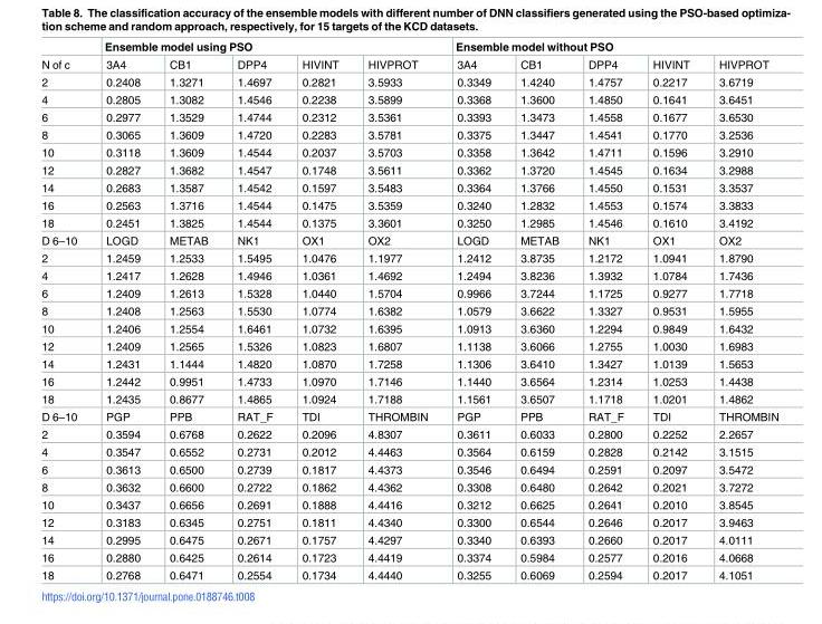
<table><thead><tr><td rowspan="2">N of c</td><td colspan="5">Ensemble model using PSO</td><td colspan="5">Ensemble model without PSO</td></tr><tr><td>3A4</td><td>CB1</td><td>DPP4</td><td>HIVINT</td><td>HIVPROT</td><td>3A4</td><td>CB1</td><td>DPP4</td><td>HIVINT</td><td>HIVPROT</td></tr></thead><tbody><tr><td>2</td><td>0.2408</td><td>1.3271</td><td>1.4697</td><td>0.2821</td><td>3.5933</td><td>0.3349</td><td>1.4240</td><td>1.4757</td><td>0.2217</td><td>3.6719</td></tr><tr><td>4</td><td>0.2805</td><td>1.3082</td><td>1.4546</td><td>0.2238</td><td>3.5899</td><td>0.3368</td><td>1.3600</td><td>1.4850</td><td>0.1641</td><td>3.6451</td></tr><tr><td>6</td><td>0.2977</td><td>1.3529</td><td>1.4744</td><td>0.2312</td><td>3.5361</td><td>0.3393</td><td>1.3473</td><td>1.4558</td><td>0.1677</td><td>3.6530</td></tr><tr><td>8</td><td>0.3065</td><td>1.3609</td><td>1.4720</td><td>0.2283</td><td>3.5781</td><td>0.3375</td><td>1.3447</td><td>1.4541</td><td>0.1770</td><td>3.2536</td></tr><tr><td>10</td><td>0.3118</td><td>1.3609</td><td>1.4544</td><td>0.2037</td><td>3.5703</td><td>0.3358</td><td>1.3642</td><td>1.4711</td><td>0.1596</td><td>3.2910</td></tr><tr><td>12</td><td>0.2827</td><td>1.3682</td><td>1.4547</td><td>0.1748</td><td>3.5611</td><td>0.3362</td><td>1.3720</td><td>1.4545</td><td>0.1634</td><td>3.2988</td></tr><tr><td>14</td><td>0.2683</td><td>1.3587</td><td>1.4542</td><td>0.1597</td><td>3.5483</td><td>0.3364</td><td>1.3766</td><td>1.4550</td><td>0.1531</td><td>3.3537</td></tr><tr><td>16</td><td>0.2563</td><td>1.3716</td><td>1.4544</td><td>0.1475</td><td>3.5359</td><td>0.3240</td><td>1.2832</td><td>1.4553</td><td>0.1574</td><td>3.3833</td></tr><tr><td>18</td><td>0.2451</td><td>1.3825</td><td>1.4544</td><td>0.1375</td><td>3.3601</td><td>0.3250</td><td>1.2985</td><td>1.4546</td><td>0.1610</td><td>3.4192</td></tr><tr><td>D 6–10</td><td>LOGD</td><td>METAB</td><td>NK1</td><td>OX1</td><td>OX2</td><td>LOGD</td><td>METAB</td><td>NK1</td><td>OX1</td><td>OX2</td></tr><tr><td>2</td><td>1.2459</td><td>1.2533</td><td>1.5495</td><td>1.0476</td><td>1.1977</td><td>1.2412</td><td>3.8735</td><td>1.2172</td><td>1.0941</td><td>1.8790</td></tr><tr><td>4</td><td>1.2417</td><td>1.2628</td><td>1.4946</td><td>1.0361</td><td>1.4692</td><td>1.2494</td><td>3.8236</td><td>1.3932</td><td>1.0784</td><td>1.7436</td></tr><tr><td>6</td><td>1.2409</td><td>1.2613</td><td>1.5328</td><td>1.0440</td><td>1.5704</td><td>0.9966</td><td>3.7244</td><td>1.1725</td><td>0.9277</td><td>1.7718</td></tr><tr><td>8</td><td>1.2408</td><td>1.2563</td><td>1.5530</td><td>1.0774</td><td>1.6382</td><td>1.0579</td><td>3.6622</td><td>1.3327</td><td>0.9531</td><td>1.5955</td></tr><tr><td>10</td><td>1.2406</td><td>1.2554</td><td>1.6461</td><td>1.0732</td><td>1.6395</td><td>1.0913</td><td>3.6360</td><td>1.2294</td><td>0.9849</td><td>1.6432</td></tr><tr><td>12</td><td>1.2409</td><td>1.2565</td><td>1.5326</td><td>1.0823</td><td>1.6807</td><td>1.1138</td><td>3.6066</td><td>1.2755</td><td>1.0030</td><td>1.6983</td></tr><tr><td>14</td><td>1.2431</td><td>1.1444</td><td>1.4820</td><td>1.0870</td><td>1.7258</td><td>1.1306</td><td>3.6410</td><td>1.3427</td><td>1.0139</td><td>1.5653</td></tr><tr><td>16</td><td>1.2442</td><td>0.9951</td><td>1.4733</td><td>1.0970</td><td>1.7146</td><td>1.1440</td><td>3.6564</td><td>1.2314</td><td>1.0253</td><td>1.4438</td></tr><tr><td>18</td><td>1.2435</td><td>0.8677</td><td>1.4865</td><td>1.0924</td><td>1.7188</td><td>1.1561</td><td>3.6507</td><td>1.1718</td><td>1.0201</td><td>1.4862</td></tr><tr><td>D 6–10</td><td>PGP</td><td>PPB</td><td>RAT_F</td><td>TDI</td><td>THROMBIN</td><td>PGP</td><td>PPB</td><td>RAT_F</td><td>TDI</td><td>THROMBIN</td></tr><tr><td>2</td><td>0.3594</td><td>0.6768</td><td>0.2622</td><td>0.2096</td><td>4.8307</td><td>0.3611</td><td>0.6033</td><td>0.2800</td><td>0.2252</td><td>2.2657</td></tr><tr><td>4</td><td>0.3547</td><td>0.6552</td><td>0.2731</td><td>0.2012</td><td>4.4463</td><td>0.3564</td><td>0.6159</td><td>0.2828</td><td>0.2142</td><td>3.1515</td></tr><tr><td>6</td><td>0.3613</td><td>0.6500</td><td>0.2739</td><td>0.1817</td><td>4.4373</td><td>0.3546</td><td>0.6494</td><td>0.2591</td><td>0.2097</td><td>3.5472</td></tr><tr><td>8</td><td>0.3632</td><td>0.6600</td><td>0.2722</td><td>0.1862</td><td>4.4362</td><td>0.3308</td><td>0.6480</td><td>0.2642</td><td>0.2021</td><td>3.7272</td></tr><tr><td>10</td><td>0.3437</td><td>0.6656</td><td>0.2691</td><td>0.1888</td><td>4.4416</td><td>0.3212</td><td>0.6625</td><td>0.2641</td><td>0.2010</td><td>3.8545</td></tr><tr><td>12</td><td>0.3183</td><td>0.6345</td><td>0.2751</td><td>0.1811</td><td>4.4340</td><td>0.3300</td><td>0.6544</td><td>0.2646</td><td>0.2017</td><td>3.9463</td></tr><tr><td>14</td><td>0.2995</td><td>0.6475</td><td>0.2671</td><td>0.1757</td><td>4.4297</td><td>0.3340</td><td>0.6393</td><td>0.2660</td><td>0.2017</td><td>4.0111</td></tr><tr><td>16</td><td>0.2880</td><td>0.6425</td><td>0.2614</td><td>0.1723</td><td>4.4419</td><td>0.3374</td><td>0.5984</td><td>0.2577</td><td>0.2016</td><td>4.0668</td></tr><tr><td>18</td><td>0.2768</td><td>0.6471</td><td>0.2554</td><td>0.1734</td><td>4.4440</td><td>0.3255</td><td>0.6069</td><td>0.2594</td><td>0.2017</td><td>4.1051</td></tr></tbody></table>